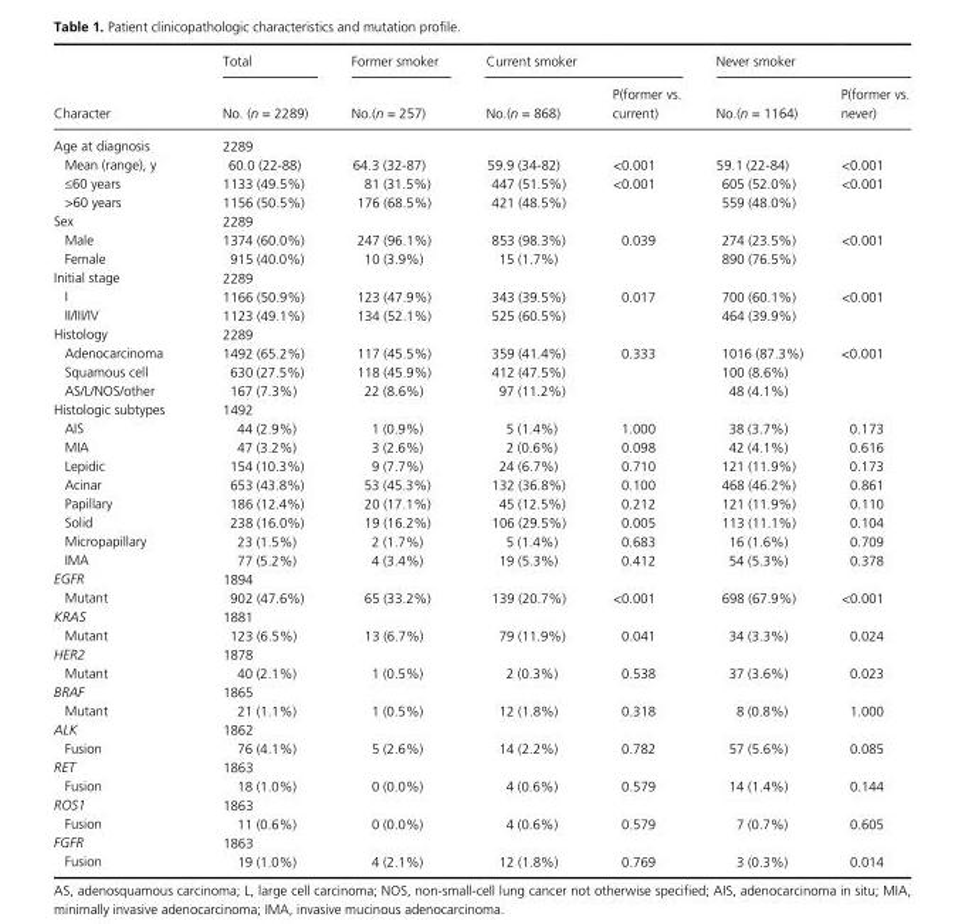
<table><thead><tr><td rowspan="2">Character</td><td rowspan="2">Total No. (n = 2289)</td><td rowspan="2">Former smoker No.(n = 257)</td><td colspan="2">Current smoker</td><td colspan="2">Never smoker</td></tr><tr><td>No.(n = 868)</td><td>P(former vs. current)</td><td>No.(n = 1164)</td><td>P(former vs. never)</td></tr></thead><tbody><tr><td>Age at diagnosis</td><td>2289</td><td></td><td></td><td></td><td></td><td></td></tr><tr><td>Mean (range), y</td><td>60.0 (22- 88)</td><td>64.3 (32- 87)</td><td>59.9 (34- 82)</td><td>&lt;0.001</td><td>59.1 (22- 84)</td><td>&lt;0.001</td></tr><tr><td>≤60 years</td><td>1133 (49.5%)</td><td>81 (31.5%)</td><td>447 (51.5%)</td><td>&lt;0.001</td><td>605 (52.0%)</td><td>&lt;0.001</td></tr><tr><td>&gt;60 years</td><td>1156 (50.5%)</td><td>176 (68.5%)</td><td>421 (48.5%)</td><td></td><td>559 (48.0%)</td><td></td></tr><tr><td>Sex</td><td>2289</td><td></td><td></td><td></td><td></td><td></td></tr><tr><td>Male</td><td>1374 (60.0%)</td><td>247 (96.1%)</td><td>853 (98.3%)</td><td>0.039</td><td>274 (23.5%)</td><td>&lt;0.001</td></tr><tr><td>Female</td><td>915 (40.0%)</td><td>10 (3.9%)</td><td>15 (1.7%)</td><td></td><td>890 (76.5%)</td><td></td></tr><tr><td>Initial stage</td><td>2289</td><td></td><td></td><td></td><td></td><td></td></tr><tr><td>I</td><td>1166 (50.9%)</td><td>123 (47.9%)</td><td>343 (39.5%)</td><td>0.017</td><td>700 (60.1%)</td><td>&lt;0.001</td></tr><tr><td>II/III/IV</td><td>1123 (49.1%)</td><td>134 (52.1%)</td><td>525 (60.5%)</td><td></td><td>464 (39.9%)</td><td></td></tr><tr><td>Histology</td><td>2289</td><td></td><td></td><td></td><td></td><td></td></tr><tr><td>Adenocarcinoma</td><td>1492 (65.2%)</td><td>117 (45.5%)</td><td>359 (41.4%)</td><td>0.333</td><td>1016 (87.3%)</td><td>&lt;0.001</td></tr><tr><td>Squamous cell</td><td>630 (27.5%)</td><td>118 (45.9%)</td><td>412 (47.5%)</td><td></td><td>100 (8.6%)</td><td></td></tr><tr><td>AS/L/NOS/other</td><td>167 (7.3%)</td><td>22 (8.6%)</td><td>97 (11.2%)</td><td></td><td>48 (4.1%)</td><td></td></tr><tr><td>Histologic subtypes</td><td>1492</td><td></td><td></td><td></td><td></td><td></td></tr><tr><td>AIS</td><td>44 (2.9%)</td><td>1 (0.9%)</td><td>5 (1.4%)</td><td>1.000</td><td>38 (3.7%)</td><td>0.173</td></tr><tr><td>MIA</td><td>47 (3.2%)</td><td>3 (2.6%)</td><td>2 (0.6%)</td><td>0.098</td><td>42 (4.1%)</td><td>0.616</td></tr><tr><td>Lepidic</td><td>154 (10.3%)</td><td>9 (7.7%)</td><td>24 (6.7%)</td><td>0.710</td><td>121 (11.9%)</td><td>0.173</td></tr><tr><td>Acinar</td><td>653 (43.8%)</td><td>53 (45.3%)</td><td>132 (36.8%)</td><td>0.100</td><td>468 (46.2%)</td><td>0.861</td></tr><tr><td>Papillary</td><td>186 (12.4%)</td><td>20 (17.1%)</td><td>45 (12.5%)</td><td>0.212</td><td>121 (11.9%)</td><td>0.110</td></tr><tr><td>Solid</td><td>238 (16.0%)</td><td>19 (16.2%)</td><td>106 (29.5%)</td><td>0.005</td><td>113 (11.1%)</td><td>0.104</td></tr><tr><td>Micropapillary</td><td>23 (1.5%)</td><td>2 (1.7%)</td><td>5 (1.4%)</td><td>0.683</td><td>16 (1.6%)</td><td>0.709</td></tr><tr><td>IMA</td><td>77 (5.2%)</td><td>4 (3.4%)</td><td>19 (5.3%)</td><td>0.412</td><td>54 (5.3%)</td><td>0.378</td></tr><tr><td>EGFR</td><td>1894</td><td></td><td></td><td></td><td></td><td></td></tr><tr><td>Mutant</td><td>902 (47.6%)</td><td>65 (33.2%)</td><td>139 (20.7%)</td><td>&lt;0.001</td><td>698 (67.9%)</td><td>&lt;0.001</td></tr><tr><td>KRAS</td><td>1881</td><td></td><td></td><td></td><td></td><td></td></tr><tr><td>Mutant</td><td>123 (6.5%)</td><td>13 (6.7%)</td><td>79 (11.9%)</td><td>0.041</td><td>34 (3.3%)</td><td>0.024</td></tr><tr><td>HER2</td><td>1878</td><td></td><td></td><td></td><td></td><td></td></tr><tr><td>Mutant</td><td>40 (2.1%)</td><td>1 (0.5%)</td><td>2 (0.3%)</td><td>0.538</td><td>37 (3.6%)</td><td>0.023</td></tr><tr><td>BRAF</td><td>1865</td><td></td><td></td><td></td><td></td><td></td></tr><tr><td>Mutant</td><td>21 (1.1%)</td><td>1 (0.5%)</td><td>12 (1.8%)</td><td>0.318</td><td>8 (0.8%)</td><td>1.000</td></tr><tr><td>ALK</td><td>1862</td><td></td><td></td><td></td><td></td><td></td></tr><tr><td>Fusion</td><td>76 (4.1%)</td><td>5 (2.6%)</td><td>14 (2.2%)</td><td>0.782</td><td>57 (5.6%)</td><td>0.085</td></tr><tr><td>RET</td><td>1863</td><td></td><td></td><td></td><td></td><td></td></tr><tr><td>Fusion</td><td>18 (1.0%)</td><td>0 (0.0%)</td><td>4 (0.6%)</td><td>0.579</td><td>14 (1.4%)</td><td>0.144</td></tr><tr><td>ROS1</td><td>1863</td><td></td><td></td><td></td><td></td><td></td></tr><tr><td>Fusion</td><td>11 (0.6%)</td><td>0 (0.0%)</td><td>4 (0.6%)</td><td>0.579</td><td>7 (0.7%)</td><td>0.605</td></tr><tr><td>FGFR</td><td>1863</td><td></td><td></td><td></td><td></td><td></td></tr><tr><td>Fusion</td><td>19 (1.0%)</td><td>4 (2.1%)</td><td>12 (1.8%)</td><td>0.769</td><td>3 (0.3%)</td><td>0.014</td></tr></tbody></table>